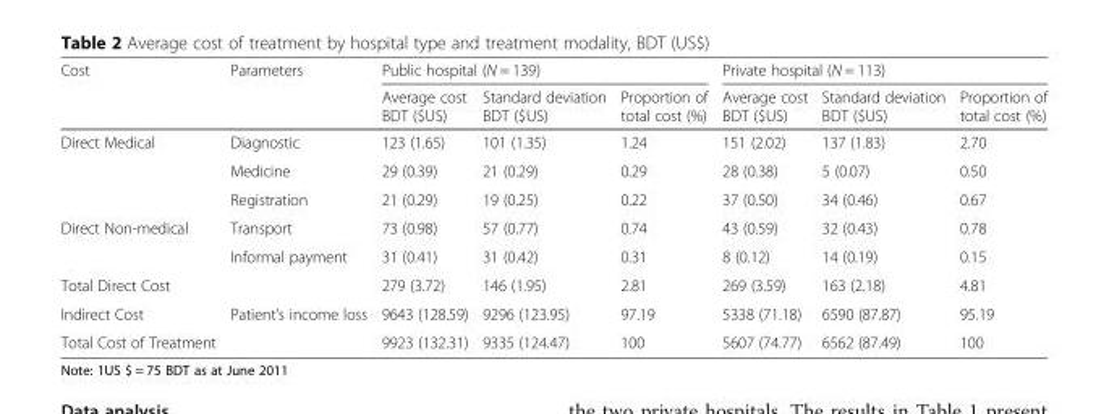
<table><thead><tr><td rowspan="2">Cost</td><td rowspan="2">Parameters</td><td colspan="3">Public hospital (N = 139)</td><td colspan="3">Private hospital (N = 113)</td></tr><tr><td>Average cost BDT ($US)</td><td>Standard deviation BDT ($US)</td><td>Proportion of total cost (%)</td><td>Average cost BDT ($US)</td><td>Standard deviation BDT ($US)</td><td>Proportion of total cost (%)</td></tr></thead><tbody><tr><td rowspan="3">Direct Medical</td><td>Diagnostic</td><td>123 (1.65)</td><td>101 (1.35)</td><td>1.24</td><td>151 (2.02)</td><td>137 (1.83)</td><td>2.70</td></tr><tr><td>Medicine</td><td>29 (0.39)</td><td>21 (0.29)</td><td>0.29</td><td>28 (0.38)</td><td>5 (0.07)</td><td>0.50</td></tr><tr><td>Registration</td><td>21 (0.29)</td><td>19 (0.25)</td><td>0.22</td><td>37 (0.50)</td><td>34 (0.46)</td><td>0.67</td></tr><tr><td rowspan="2">Direct Non-medical</td><td>Transport</td><td>73 (0.98)</td><td>57 (0.77)</td><td>0.74</td><td>43 (0.59)</td><td>32 (0.43)</td><td>0.78</td></tr><tr><td>Informal payment</td><td>31 (0.41)</td><td>31 (0.42)</td><td>0.31</td><td>8 (0.12)</td><td>14 (0.19)</td><td>0.15</td></tr><tr><td>Total Direct Cost</td><td></td><td>279 (3.72)</td><td>146 (1.95)</td><td>2.81</td><td>269 (3.59)</td><td>163 (2.18)</td><td>4.81</td></tr><tr><td>Indirect Cost</td><td>Patient’s income loss</td><td>9643 (128.59)</td><td>9296 (123.95)</td><td>97.19</td><td>5338 (71.18)</td><td>6590 (87.87)</td><td>95.19</td></tr><tr><td>Total Cost of Treatment</td><td></td><td>9923 (132.31)</td><td>9335 (124.47)</td><td>100</td><td>5607 (74.77)</td><td>6562 (87.49)</td><td>100</td></tr></tbody></table>